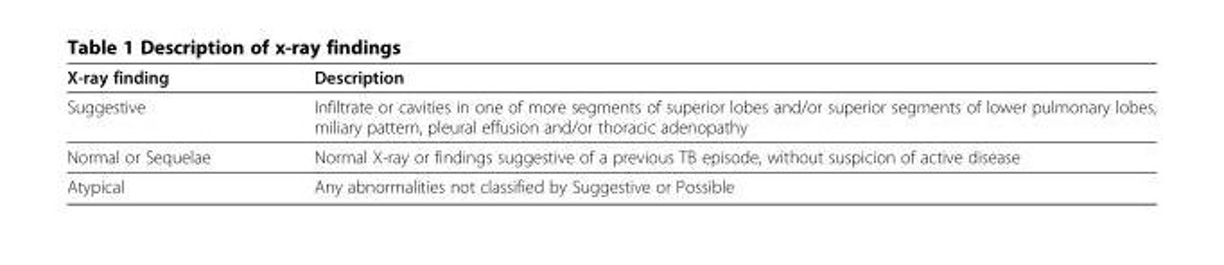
<table><thead><tr><td>X-ray finding</td><td>Description</td></tr></thead><tbody><tr><td>Suggestive</td><td>Infiltrate or cavities in one of more segments of superior lobes and/or superior segments of lower pulmonary lobes, miliary pattern, pleural effusion and/or thoracic adenopathy</td></tr><tr><td>Normal or Sequelae</td><td>Normal X-ray or findings suggestive of a previous TB episode, without suspicion of active disease</td></tr><tr><td>Atypical</td><td>Any abnormalities not classified by Suggestive or Possible</td></tr></tbody></table>